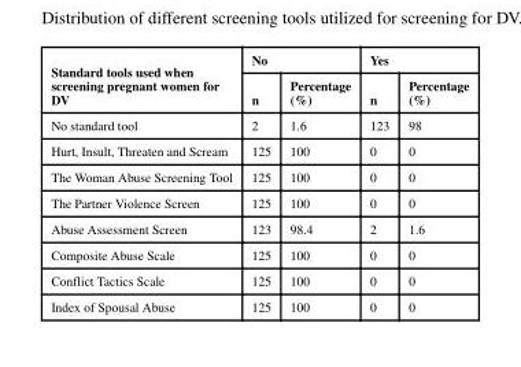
<table><thead><tr><td rowspan="2">Standard tools used when screening pregnant women for DV</td><td colspan="2">No</td><td colspan="2">Yes</td></tr><tr><td>n</td><td>Percentage (%)</td><td>n</td><td>Percentage (%)</td></tr></thead><tbody><tr><td>No standard tool</td><td>2</td><td>1.6</td><td>123</td><td>98</td></tr><tr><td>Hurt, Insult, Threaten and Scream</td><td>125</td><td>100</td><td>0</td><td>0</td></tr><tr><td>The Woman Abuse Screening Tool</td><td>125</td><td>100</td><td>0</td><td>0</td></tr><tr><td>The Partner Violence Screen</td><td>125</td><td>100</td><td>0</td><td>0</td></tr><tr><td>Abuse Assessment Screen</td><td>123</td><td>98.4</td><td>2</td><td>1.6</td></tr><tr><td>Composite Abuse Scale</td><td>125</td><td>100</td><td>0</td><td>0</td></tr><tr><td>Conflict Tactics Scale</td><td>125</td><td>100</td><td>0</td><td>0</td></tr><tr><td>Index of Spousal Abuse</td><td>125</td><td>100</td><td>0</td><td>0</td></tr></tbody></table>